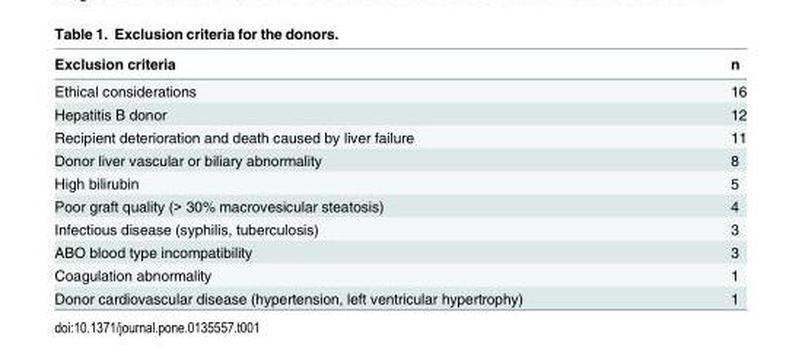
<table><thead><tr><td>Exclusion criteria</td><td>n</td></tr></thead><tbody><tr><td>Ethical considerations</td><td>16</td></tr><tr><td>Hepatitis B donor</td><td>12</td></tr><tr><td>Recipient deterioration and death caused by liver failure</td><td>11</td></tr><tr><td>Donor liver vascular or biliary abnormality</td><td>8</td></tr><tr><td>High bilirubin</td><td>5</td></tr><tr><td>Poor graft quality (&gt; 30% macrovesicular steatosis)</td><td>4</td></tr><tr><td>Infectious disease (syphilis, tuberculosis)</td><td>3</td></tr><tr><td>ABO blood type incompatibility</td><td>3</td></tr><tr><td>Coagulation abnormality</td><td>1</td></tr><tr><td>Donor cardiovascular disease (hypertension, left ventricular hypertrophy)</td><td>1</td></tr></tbody></table>